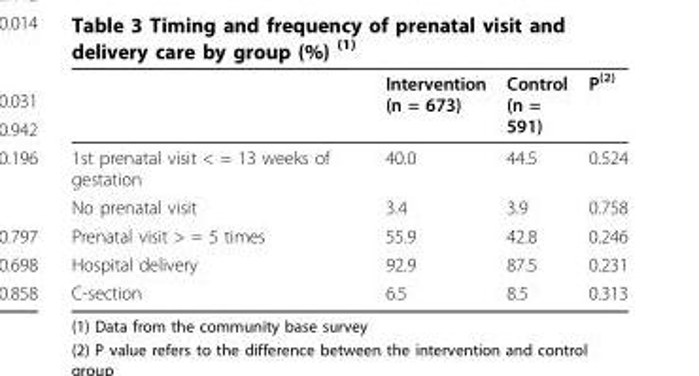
<table><thead><tr><td></td><td>Intervention (n = 673)</td><td>Control (n = 591)</td><td>P<sup>(2)</sup></td></tr></thead><tbody><tr><td>1st prenatal visit &lt; = 13 weeks of gestation</td><td>40.0</td><td>44.5</td><td>0.524</td></tr><tr><td>No prenatal visit</td><td>3.4</td><td>3.9</td><td>0.758</td></tr><tr><td>Prenatal visit &gt; = 5 times</td><td>55.9</td><td>42.8</td><td>0.246</td></tr><tr><td>Hospital delivery</td><td>92.9</td><td>87.5</td><td>0.231</td></tr><tr><td>C-section</td><td>6.5</td><td>8.5</td><td>0.313</td></tr></tbody></table>